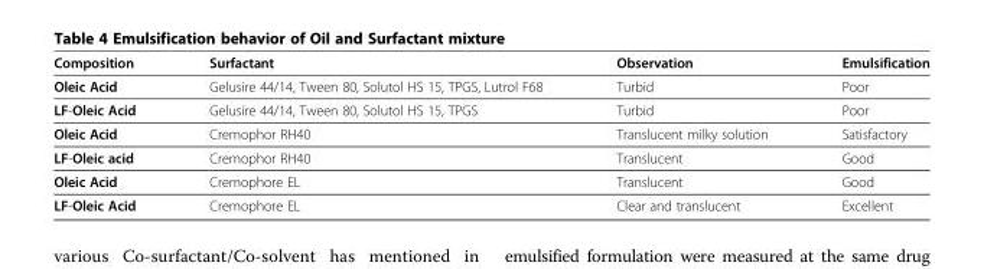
<table><thead><tr><td>Composition</td><td>Surfactant</td><td>Observation</td><td>Emulsification</td></tr></thead><tbody><tr><td>Oleic Acid</td><td>Gelusire 44/14, Tween 80, Solutol HS 15, TPGS, Lutrol F68</td><td>Turbid</td><td>Poor</td></tr><tr><td>LF-Oleic Acid</td><td>Gelusire 44/14, Tween 80, Solutol HS 15, TPGS</td><td>Turbid</td><td>Poor</td></tr><tr><td>Oleic Acid</td><td>Cremophor RH40</td><td>Translucent milky solution</td><td>Satisfactory</td></tr><tr><td>LF-Oleic acid</td><td>Cremophor RH40</td><td>Translucent</td><td>Good</td></tr><tr><td>Oleic Acid</td><td>Cremophore EL</td><td>Translucent</td><td>Good</td></tr><tr><td>LF-Oleic Acid</td><td>Cremophore EL</td><td>Clear and translucent</td><td>Excellent</td></tr></tbody></table>